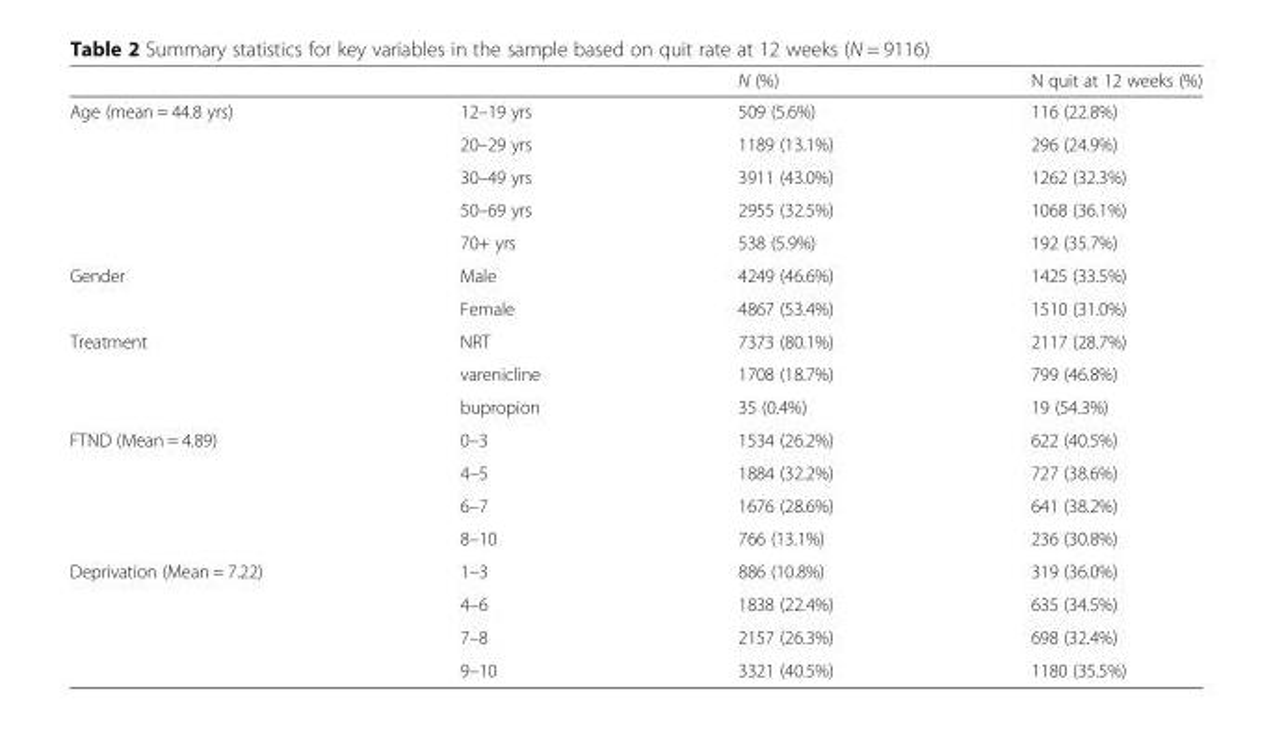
<table><thead><tr><td></td><td></td><td>N (%)</td><td>N quit at 12 weeks (%)</td></tr></thead><tbody><tr><td rowspan="5">Age (mean = 44.8 yrs)</td><td>12–19 yrs</td><td>509 (5.6%)</td><td>116 (22.8%)</td></tr><tr><td>20–29 yrs</td><td>1189 (13.1%)</td><td>296 (24.9%)</td></tr><tr><td>30–49 yrs</td><td>3911 (43.0%)</td><td>1262 (32.3%)</td></tr><tr><td>50–69 yrs</td><td>2955 (32.5%)</td><td>1068 (36.1%)</td></tr><tr><td>70+ yrs</td><td>538 (5.9%)</td><td>192 (35.7%)</td></tr><tr><td rowspan="2">Gender</td><td>Male</td><td>4249 (46.6%)</td><td>1425 (33.5%)</td></tr><tr><td>Female</td><td>4867 (53.4%)</td><td>1510 (31.0%)</td></tr><tr><td rowspan="3">Treatment</td><td>NRT</td><td>7373 (80.1%)</td><td>2117 (28.7%)</td></tr><tr><td>varenicline</td><td>1708 (18.7%)</td><td>799 (46.8%)</td></tr><tr><td>bupropion</td><td>35 (0.4%)</td><td>19 (54.3%)</td></tr><tr><td rowspan="4">FTND (Mean = 4.89)</td><td>0–3</td><td>1534 (26.2%)</td><td>622 (40.5%)</td></tr><tr><td>4–5</td><td>1884 (32.2%)</td><td>727 (38.6%)</td></tr><tr><td>6–7</td><td>1676 (28.6%)</td><td>641 (38.2%)</td></tr><tr><td>8–10</td><td>766 (13.1%)</td><td>236 (30.8%)</td></tr><tr><td rowspan="4">Deprivation (Mean = 7.22)</td><td>1–3</td><td>886 (10.8%)</td><td>319 (36.0%)</td></tr><tr><td>4–6</td><td>1838 (22.4%)</td><td>635 (34.5%)</td></tr><tr><td>7–8</td><td>2157 (26.3%)</td><td>698 (32.4%)</td></tr><tr><td>9–10</td><td>3321 (40.5%)</td><td>1180 (35.5%)</td></tr></tbody></table>